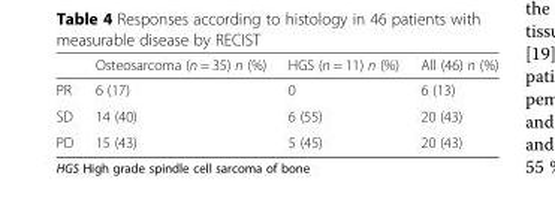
<table><thead><tr><td></td><td>Osteosarcoma (n = 35) n (%)</td><td>HGS (n = 11) n (%)</td><td>All (46) n (%)</td></tr></thead><tbody><tr><td>PR</td><td>6 (17)</td><td>0</td><td>6 (13)</td></tr><tr><td>SD</td><td>14 (40)</td><td>6 (55)</td><td>20 (43)</td></tr><tr><td>PD</td><td>15 (43)</td><td>5 (45)</td><td>20 (43)</td></tr></tbody></table>